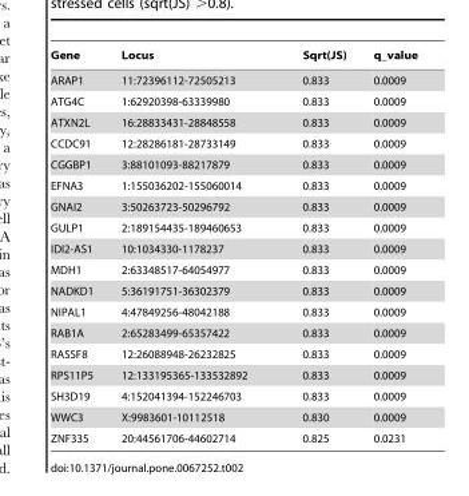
<table><thead><tr><td>Gene</td><td>Locus</td><td>Sqrt(JS)</td><td>q_value</td></tr></thead><tbody><tr><td>ARAP1</td><td>11:72396112-72505213</td><td>0.833</td><td>0.0009</td></tr><tr><td>ATG4C</td><td>1:62920398-63339980</td><td>0.833</td><td>0.0009</td></tr><tr><td>ATXN2L</td><td>16:28833431-28848558</td><td>0.833</td><td>0.0009</td></tr><tr><td>CCDC91</td><td>12:28286181-28733149</td><td>0.833</td><td>0.0009</td></tr><tr><td>CGGBP1</td><td>3:88101093-88217879</td><td>0.833</td><td>0.0009</td></tr><tr><td>EFNA3</td><td>1:155036202-155060014</td><td>0.833</td><td>0.0009</td></tr><tr><td>GNAI2</td><td>3:50263723-50296792</td><td>0.833</td><td>0.0009</td></tr><tr><td>GULP1</td><td>2:189154435-189460653</td><td>0.833</td><td>0.0009</td></tr><tr><td>IDI2-AS1</td><td>10:1034330-1178237</td><td>0.833</td><td>0.0009</td></tr><tr><td>MDH1</td><td>2:63348517-64054977</td><td>0.833</td><td>0.0009</td></tr><tr><td>NADKD1</td><td>5:36191751-36302379</td><td>0.833</td><td>0.0009</td></tr><tr><td>NIPAL1</td><td>4:47849256-48042188</td><td>0.833</td><td>0.0009</td></tr><tr><td>RAB1A</td><td>2:65283499-65357422</td><td>0.833</td><td>0.0009</td></tr><tr><td>RASSF8</td><td>12:26088948-26232825</td><td>0.833</td><td>0.0009</td></tr><tr><td>RPS11P5</td><td>12:133195365-133532892</td><td>0.833</td><td>0.0009</td></tr><tr><td>SH3D19</td><td>4:152041394-152246703</td><td>0.833</td><td>0.0009</td></tr><tr><td>WWC3</td><td>X:9983601-10112518</td><td>0.830</td><td>0.0009</td></tr><tr><td>ZNF335</td><td>20:44561706-44602714</td><td>0.825</td><td>0.0231</td></tr></tbody></table>